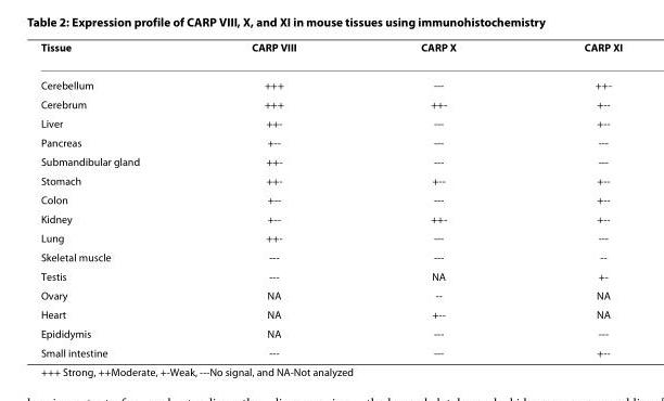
<table><thead><tr><td>Tissue</td><td>CARP VIII</td><td>CARP X</td><td>CARP XI</td></tr></thead><tbody><tr><td>Cerebellum</td><td>+++</td><td>---</td><td>++-</td></tr><tr><td>Cerebrum</td><td>+++</td><td>++-</td><td>+--</td></tr><tr><td>Liver</td><td>++-</td><td>---</td><td>+--</td></tr><tr><td>Pancreas</td><td>+--</td><td>---</td><td>---</td></tr><tr><td>Submandibular gland</td><td>++-</td><td>---</td><td>---</td></tr><tr><td>Stomach</td><td>++-</td><td>+--</td><td>+--</td></tr><tr><td>Colon</td><td>+--</td><td>---</td><td>+--</td></tr><tr><td>Kidney</td><td>+--</td><td>++-</td><td>+--</td></tr><tr><td>Lung</td><td>++-</td><td>---</td><td>---</td></tr><tr><td>Skeletal muscle</td><td>---</td><td>---</td><td>--</td></tr><tr><td>Testis</td><td>---</td><td>NA</td><td>+-</td></tr><tr><td>Ovary</td><td>NA</td><td>--</td><td>NA</td></tr><tr><td>Heart</td><td>NA</td><td>+--</td><td>NA</td></tr><tr><td>Epididymis</td><td>NA</td><td>---</td><td>---</td></tr><tr><td>Small intestine</td><td>---</td><td>---</td><td>+--</td></tr></tbody></table>